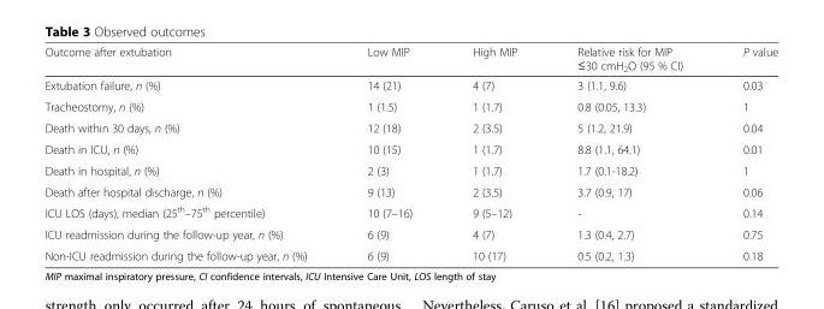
<table><thead><tr><td>Outcome after extubation</td><td>Low MIP</td><td>High MIP</td><td>Relative risk for MIP ≤30 cmH<sub>2</sub>O (95 % CI)</td><td>P value</td></tr></thead><tbody><tr><td>Extubation failure, n (%)</td><td>14 (21)</td><td>4 (7)</td><td>3 (1.1, 9.6)</td><td>0.03</td></tr><tr><td>Tracheostomy, n (%)</td><td>1 (1.5)</td><td>1 (1.7)</td><td>0.8 (0.05, 13.3)</td><td>1</td></tr><tr><td>Death within 30 days, n (%)</td><td>12 (18)</td><td>2 (3.5)</td><td>5 (1.2, 21.9)</td><td>0.04</td></tr><tr><td>Death in ICU, n (%)</td><td>10 (15)</td><td>1 (1.7)</td><td>8.8 (1.1, 64.1)</td><td>0.01</td></tr><tr><td>Death in hospital, n (%)</td><td>2 (3)</td><td>1 (1.7)</td><td>1.7 (0.1-18.2)</td><td>1</td></tr><tr><td>Death after hospital discharge, n (%)</td><td>9 (13)</td><td>2 (3.5)</td><td>3.7 (0.9, 17)</td><td>0.06</td></tr><tr><td>ICU LOS (days), median (25<sup>th</sup>–75<sup>th</sup> percentile)</td><td>10 (7–16)</td><td>9 (5–12)</td><td>-</td><td>0.14</td></tr><tr><td>ICU readmission during the follow-up year, n (%)</td><td>6 (9)</td><td>4 (7)</td><td>1.3 (0.4, 2.7)</td><td>0.75</td></tr><tr><td>Non-ICU readmission during the follow-up year, n (%)</td><td>6 (9)</td><td>10 (17)</td><td>0.5 (0.2, 1.3)</td><td>0.18</td></tr></tbody></table>